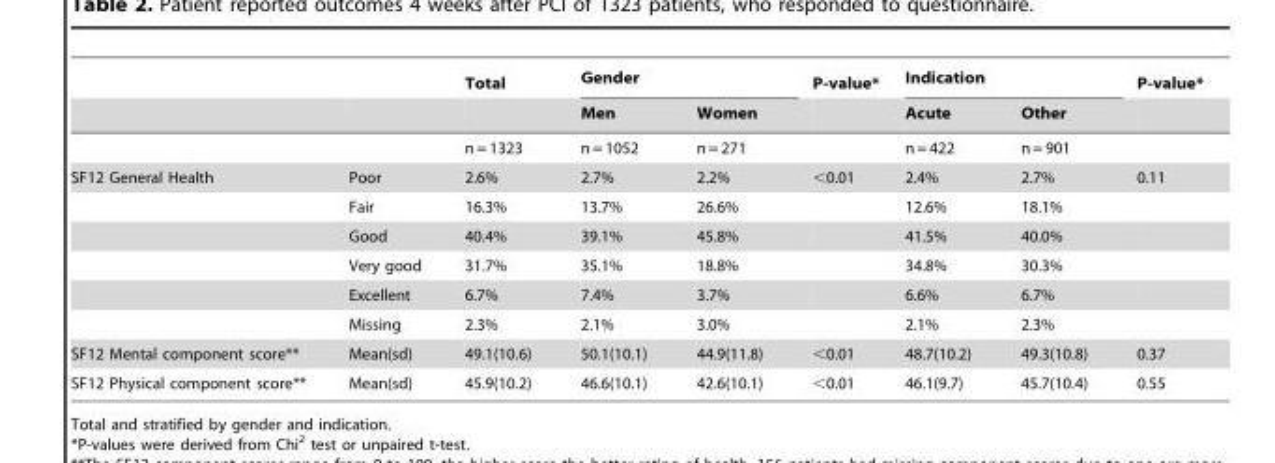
<table><thead><tr><td rowspan="2"></td><td rowspan="2"></td><td rowspan="2">Total</td><td colspan="2">Gender</td><td rowspan="2">P-value*</td><td colspan="2">Indication</td><td rowspan="2">P-value*</td></tr><tr><td>Men</td><td>Women</td><td>Acute</td><td>Other</td></tr></thead><tbody><tr><td></td><td></td><td>n = 1323</td><td>n = 1052</td><td>n = 271</td><td></td><td>n = 422</td><td>n = 901</td><td></td></tr><tr><td rowspan="6">SF12 General Health</td><td>Poor</td><td>2.6%</td><td>2.7%</td><td>2.2%</td><td>&lt;0.01</td><td>2.4%</td><td>2.7%</td><td>0.11</td></tr><tr><td>Fair</td><td>16.3%</td><td>13.7%</td><td>26.6%</td><td></td><td>12.6%</td><td>18.1%</td><td></td></tr><tr><td>Good</td><td>40.4%</td><td>39.1%</td><td>45.8%</td><td></td><td>41.5%</td><td>40.0%</td><td></td></tr><tr><td>Very good</td><td>31.7%</td><td>35.1%</td><td>18.8%</td><td></td><td>34.8%</td><td>30.3%</td><td></td></tr><tr><td>Excellent</td><td>6.7%</td><td>7.4%</td><td>3.7%</td><td></td><td>6.6%</td><td>6.7%</td><td></td></tr><tr><td>Missing</td><td>2.3%</td><td>2.1%</td><td>3.0%</td><td></td><td>2.1%</td><td>2.3%</td><td></td></tr><tr><td>SF12 Mental component score**</td><td>Mean(sd)</td><td>49.1(10.6)</td><td>50.1(10.1)</td><td>44.9(11.8)</td><td>&lt;0.01</td><td>48.7(10.2)</td><td>49.3(10.8)</td><td>0.37</td></tr><tr><td>SF12 Physical component score**</td><td>Mean(sd)</td><td>45.9(10.2)</td><td>46.6(10.1)</td><td>42.6(10.1)</td><td>&lt;0.01</td><td>46.1(9.7)</td><td>45.7(10.4)</td><td>0.55</td></tr></tbody></table>